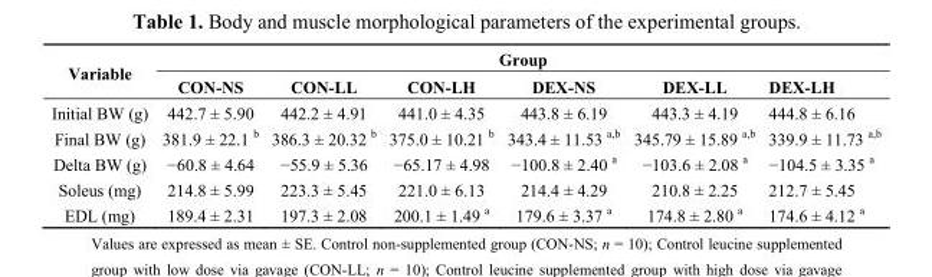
<table><thead><tr><td rowspan="2">Variable</td><td colspan="6">Group</td></tr><tr><td>CON-NS</td><td>CON-LL</td><td>CON-LH</td><td>DEX-NS</td><td>DEX-LL</td><td>DEX-LH</td></tr></thead><tbody><tr><td>Initial BW (g)</td><td>442.7 ± 5.90</td><td>442.2 ± 4.91</td><td>441.0 ± 4.35</td><td>443.8 ± 6.19</td><td>443.3 ± 4.19</td><td>444.8 ± 6.16</td></tr><tr><td>Final BW (g)</td><td>381.9 ± 22.1 <sup>b</sup></td><td>386.3 ± 20.32 <sup>b</sup></td><td>375.0 ± 10.21 <sup>b</sup></td><td>343.4 ± 11.53 <sup>a,b</sup></td><td>345.79 ± 15.89 <sup>a,b</sup></td><td>339.9 ± 11.73 <sup>a,b</sup></td></tr><tr><td>Delta BW (g)</td><td>−60.8 ± 4.64</td><td>−55.9 ± 5.36</td><td>−65.17 ± 4.98</td><td>−100.8 ± 2.40 <sup>a</sup></td><td>−103.6 ± 2.08 <sup>a</sup></td><td>−104.5 ± 3.35 <sup>a</sup></td></tr><tr><td>Soleus (mg)</td><td>214.8 ± 5.99</td><td>223.3 ± 5.45</td><td>221.0 ± 6.13</td><td>214.4 ± 4.29</td><td>210.8 ± 2.25</td><td>212.7 ± 5.45</td></tr><tr><td>EDL (mg)</td><td>189.4 ± 2.31</td><td>197.3 ± 2.08</td><td>200.1 ± 1.49 <sup>a</sup></td><td>179.6 ± 3.37 <sup>a</sup></td><td>174.8 ± 2.80 <sup>a</sup></td><td>174.6 ± 4.12 <sup>a</sup></td></tr></tbody></table>